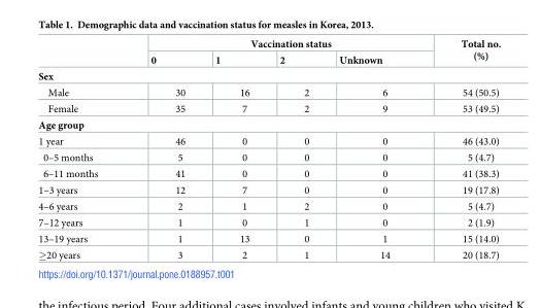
<table><thead><tr><td rowspan="2"></td><td colspan="4">Vaccination status</td><td rowspan="2">Total no. (%)</td></tr><tr><td>0</td><td>1</td><td>2</td><td>Unknown</td></tr></thead><tbody><tr><td colspan="6">Sex</td></tr><tr><td>Male</td><td>30</td><td>16</td><td>2</td><td>6</td><td>54 (50.5)</td></tr><tr><td>Female</td><td>35</td><td>7</td><td>2</td><td>9</td><td>53 (49.5)</td></tr><tr><td colspan="6">Age group</td></tr><tr><td>1 year</td><td>46</td><td>0</td><td>0</td><td>0</td><td>46 (43.0)</td></tr><tr><td>0–5 months</td><td>5</td><td>0</td><td>0</td><td>0</td><td>5 (4.7)</td></tr><tr><td>6–11 months</td><td>41</td><td>0</td><td>0</td><td>0</td><td>41 (38.3)</td></tr><tr><td>1–3 years</td><td>12</td><td>7</td><td>0</td><td>0</td><td>19 (17.8)</td></tr><tr><td>4–6 years</td><td>2</td><td>1</td><td>2</td><td>0</td><td>5 (4.7)</td></tr><tr><td>7–12 years</td><td>1</td><td>0</td><td>1</td><td>0</td><td>2 (1.9)</td></tr><tr><td>13–19 years</td><td>1</td><td>13</td><td>0</td><td>1</td><td>15 (14.0)</td></tr><tr><td>≥20 years</td><td>3</td><td>2</td><td>1</td><td>14</td><td>20 (18.7)</td></tr></tbody></table>